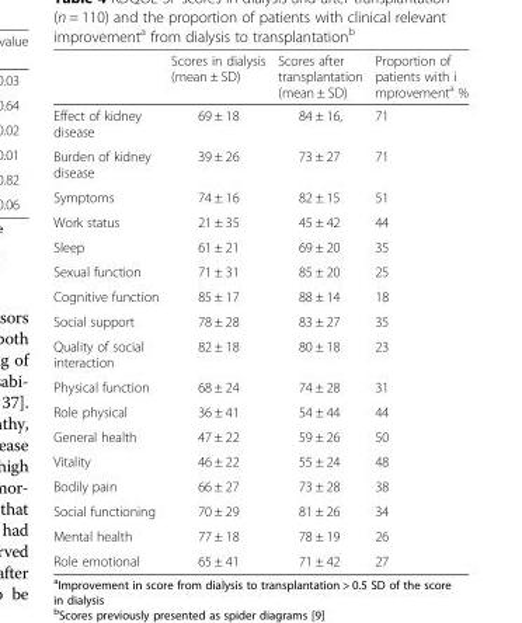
<table><thead><tr><td></td><td>Scores in dialysis (mean ± SD)</td><td>Scores after transplantation (mean ± SD)</td><td>Proportion of patients with i mprovement<sup>a</sup> %</td></tr></thead><tbody><tr><td>Effect of kidney disease</td><td>69 ± 18</td><td>84 ± 16,</td><td>71</td></tr><tr><td>Burden of kidney disease</td><td>39 ± 26</td><td>73 ± 27</td><td>71</td></tr><tr><td>Symptoms</td><td>74 ± 16</td><td>82 ± 15</td><td>51</td></tr><tr><td>Work status</td><td>21 ± 35</td><td>45 ± 42</td><td>44</td></tr><tr><td>Sleep</td><td>61 ± 21</td><td>69 ± 20</td><td>35</td></tr><tr><td>Sexual function</td><td>71 ± 31</td><td>85 ± 20</td><td>25</td></tr><tr><td>Cognitive function</td><td>85 ± 17</td><td>88 ± 14</td><td>18</td></tr><tr><td>Social support</td><td>78 ± 28</td><td>83 ± 27</td><td>35</td></tr><tr><td>Quality of social interaction</td><td>82 ± 18</td><td>80 ± 18</td><td>23</td></tr><tr><td>Physical function</td><td>68 ± 24</td><td>74 ± 28</td><td>31</td></tr><tr><td>Role physical</td><td>36 ± 41</td><td>54 ± 44</td><td>44</td></tr><tr><td>General health</td><td>47 ± 22</td><td>59 ± 26</td><td>50</td></tr><tr><td>Vitality</td><td>46 ± 22</td><td>55 ± 24</td><td>48</td></tr><tr><td>Bodily pain</td><td>66 ± 27</td><td>73 ± 28</td><td>38</td></tr><tr><td>Social functioning</td><td>70 ± 29</td><td>81 ± 26</td><td>34</td></tr><tr><td>Mental health</td><td>77 ± 18</td><td>78 ± 19</td><td>26</td></tr><tr><td>Role emotional</td><td>65 ± 41</td><td>71 ± 42</td><td>27</td></tr></tbody></table>